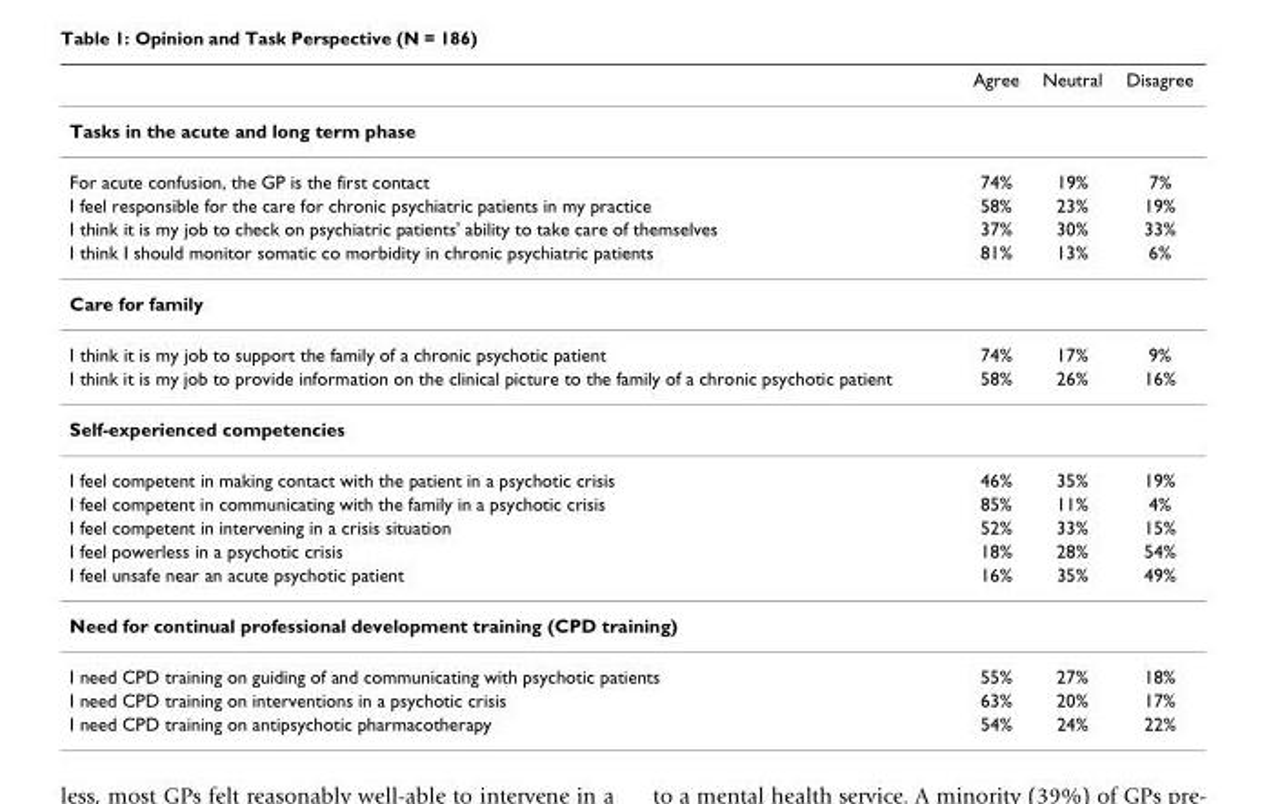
<table><thead><tr><td></td><td>Agree</td><td>Neutral</td><td>Disagree</td></tr></thead><tbody><tr><td colspan="4">Tasks in the acute and long term phase</td></tr><tr><td>For acute confusion, the GP is the first contact</td><td>74%</td><td>19%</td><td>7%</td></tr><tr><td>I feel responsible for the care for chronic psychiatric patients in my practice</td><td>58%</td><td>23%</td><td>19%</td></tr><tr><td>I think it is my job to check on psychiatric patients&#x27; ability to take care of themselves</td><td>37%</td><td>30%</td><td>33%</td></tr><tr><td>I think I should monitor somatic co morbidity in chronic psychiatric patients</td><td>81%</td><td>13%</td><td>6%</td></tr><tr><td colspan="4">Care for family</td></tr><tr><td>I think it is my job to support the family of a chronic psychotic patient</td><td>74%</td><td>17%</td><td>9%</td></tr><tr><td>I think it is my job to provide information on the clinical picture to the family of a chronic psychotic patient</td><td>58%</td><td>26%</td><td>16%</td></tr><tr><td colspan="4">Self-experienced competencies</td></tr><tr><td>I feel competent in making contact with the patient in a psychotic crisis</td><td>46%</td><td>35%</td><td>19%</td></tr><tr><td>I feel competent in communicating with the family in a psychotic crisis</td><td>85%</td><td>11%</td><td>4%</td></tr><tr><td>I feel competent in intervening in a crisis situation</td><td>52%</td><td>33%</td><td>15%</td></tr><tr><td>I feel powerless in a psychotic crisis</td><td>18%</td><td>28%</td><td>54%</td></tr><tr><td>I feel unsafe near an acute psychotic patient</td><td>16%</td><td>35%</td><td>49%</td></tr><tr><td colspan="4">Need for continual professional development training (CPD training)</td></tr><tr><td>I need CPD training on guiding of and communicating with psychotic patients</td><td>55%</td><td>27%</td><td>18%</td></tr><tr><td>I need CPD training on interventions in a psychotic crisis</td><td>63%</td><td>20%</td><td>17%</td></tr><tr><td>I need CPD training on antipsychotic pharmacotherapy</td><td>54%</td><td>24%</td><td>22%</td></tr></tbody></table>